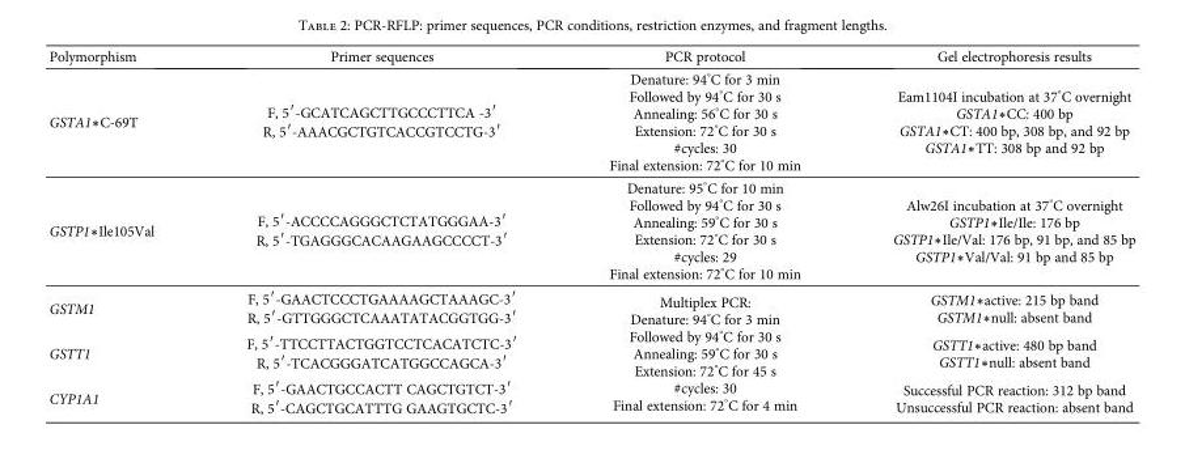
<table><thead><tr><td>Polymorphism</td><td>Primer sequences</td><td>PCR protocol</td><td>Gel electrophoresis results</td></tr></thead><tbody><tr><td>GSTA1∗C-69T</td><td>F, 5′-GCATCAGCTTGCCCTTCA -3′ R, 5′-AAACGCTGTCACCGTCCTG-3′</td><td>Denature: 94°C for 3 min Followed by 94°C for 30 s Annealing: 56°C for 30 s Extension: 72°C for 30 s #cycles: 30 Final extension: 72°C for 10 min</td><td>Eam1104I incubation at 37°C overnight GSTA1∗CC: 400 bp GSTA1∗CT: 400 bp, 308 bp, and 92 bp GSTA1∗TT: 308 bp and 92 bp</td></tr><tr><td>GSTP1∗Ile105Val</td><td>F, 5′-ACCCCAGGGCTCTATGGGAA-3′ R, 5′-TGAGGGCACAAGAAGCCCCT-3′</td><td>Denature: 95°C for 10 min Followed by 94°C for 30 s Annealing: 59°C for 30 s Extension: 72°C for 30 s #cycles: 29 Final extension: 72°C for 10 min</td><td>Alw26I incubation at 37°C overnight GSTP1∗Ile/Ile: 176 bp GSTP1∗Ile/Val: 176 bp, 91 bp, and 85 bp GSTP1∗Val/Val: 91 bp and 85 bp</td></tr><tr><td>GSTM1</td><td>F, 5′-GAACTCCCTGAAAAGCTAAAGC-3′ R, 5′-GTTGGGCTCAAATATACGGTGG-3′</td><td rowspan="3">Multiplex PCR: Denature: 94°C for 3 min Followed by 94°C for 30 s Annealing: 59°C for 30 s Extension: 72°C for 45 s #cycles: 30 Final extension: 72°C for 4 min</td><td>GSTM1∗active: 215 bp band GSTM1∗null: absent band</td></tr><tr><td>GSTT1</td><td>F, 5′-TTCCTTACTGGTCCTCACATCTC-3′ R, 5′-TCACGGGATCATGGCCAGCA-3′</td><td>GSTT1∗active: 480 bp band GSTT1∗null: absent band</td></tr><tr><td>CYP1A1</td><td>F, 5′-GAACTGCCACTT CAGCTGTCT-3′ R, 5′-CAGCTGCATTTG GAAGTGCTC-3′</td><td>Successful PCR reaction: 312 bp band Unsuccessful PCR reaction: absent band</td></tr></tbody></table>